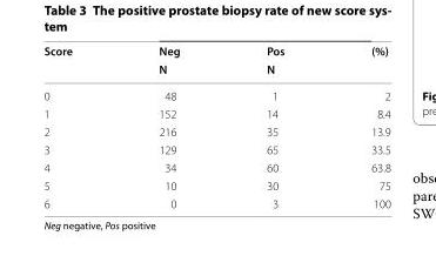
<table><thead><tr><td rowspan="2">Score</td><td rowspan="2">Neg N</td><td rowspan="2">Pos N</td><td rowspan="2">(%)</td></tr><tr></tr></thead><tbody><tr><td>0</td><td>48</td><td>1</td><td>2</td></tr><tr><td>1</td><td>152</td><td>14</td><td>8.4</td></tr><tr><td>2</td><td>216</td><td>35</td><td>13.9</td></tr><tr><td>3</td><td>129</td><td>65</td><td>33.5</td></tr><tr><td>4</td><td>34</td><td>60</td><td>63.8</td></tr><tr><td>5</td><td>10</td><td>30</td><td>75</td></tr><tr><td>6</td><td>0</td><td>3</td><td>100</td></tr></tbody></table>